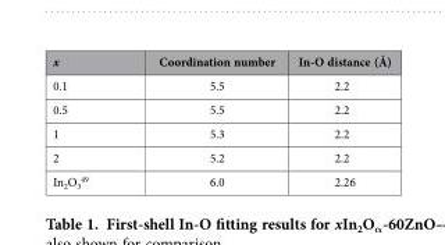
<table><thead><tr><td>x</td><td>Coordination number</td><td>In-O distance (Å)</td></tr></thead><tbody><tr><td>0.1</td><td>5.5</td><td>2.2</td></tr><tr><td>0.5</td><td>5.5</td><td>2.2</td></tr><tr><td>1</td><td>5.3</td><td>2.2</td></tr><tr><td>2</td><td>5.2</td><td>2.2</td></tr><tr><td>In<sub>2</sub>O<sub>3</sub> <sup>49</sup></td><td>6.0</td><td>2.26</td></tr></tbody></table>